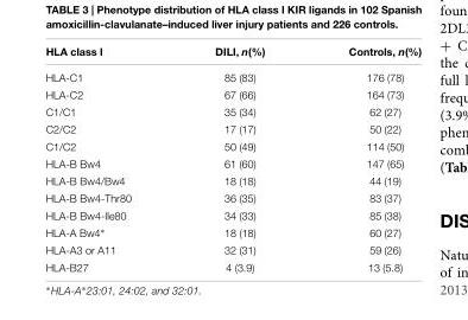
<table><thead><tr><td>HLA class I</td><td>DILI, n(%)</td><td>Controls, n(%)</td></tr></thead><tbody><tr><td>HLA-C1</td><td>85 (83)</td><td>176 (78)</td></tr><tr><td>HLA-C2</td><td>67 (66)</td><td>164 (73)</td></tr><tr><td>C1/C1</td><td>35 (34)</td><td>62 (27)</td></tr><tr><td>C2/C2</td><td>17 (17)</td><td>50 (22)</td></tr><tr><td>C1/C2</td><td>50 (49)</td><td>114 (50)</td></tr><tr><td>HLA-B Bw4</td><td>61 (60)</td><td>147 (65)</td></tr><tr><td>HLA-B Bw4/Bw4</td><td>18 (18)</td><td>44 (19)</td></tr><tr><td>HLA-B Bw4-Thr80</td><td>36 (35)</td><td>83 (37)</td></tr><tr><td>HLA-B Bw4-Ile80</td><td>34 (33)</td><td>85 (38)</td></tr><tr><td>HLA-A Bw4∗</td><td>18 (18)</td><td>60 (27)</td></tr><tr><td>HLA-A3 or A11</td><td>32 (31)</td><td>59 (26)</td></tr><tr><td>HLA-B27</td><td>4 (3.9)</td><td>13 (5.8)</td></tr></tbody></table>